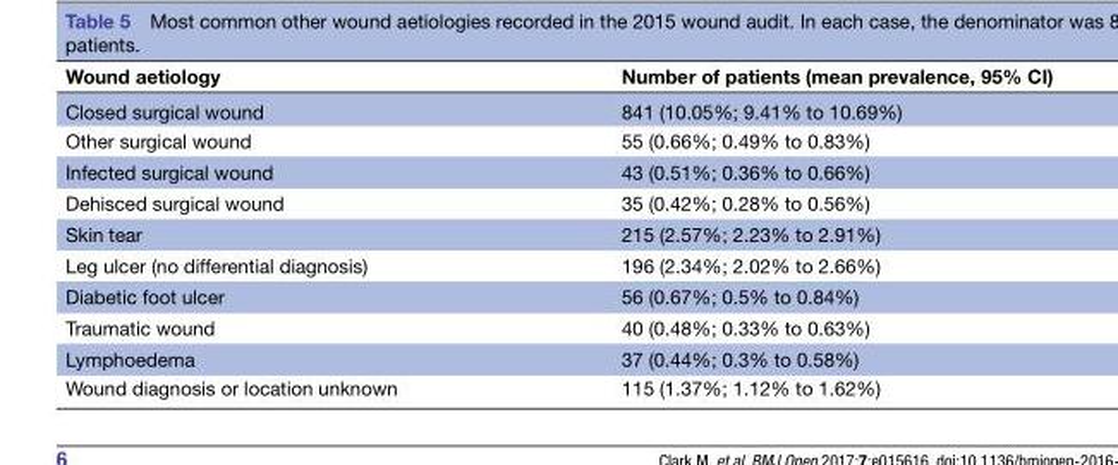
<table><thead><tr><td>Wound aetiology</td><td>Number of patients (mean prevalence, 95% CI)</td></tr></thead><tbody><tr><td>Closed surgical wound</td><td>841 (10.05%; 9.41% to 10.69%)</td></tr><tr><td>Other surgical wound</td><td>55 (0.66%; 0.49% to 0.83%)</td></tr><tr><td>Infected surgical wound</td><td>43 (0.51%; 0.36% to 0.66%)</td></tr><tr><td>Dehisced surgical wound</td><td>35 (0.42%; 0.28% to 0.56%)</td></tr><tr><td>Skin tear</td><td>215 (2.57%; 2.23% to 2.91%)</td></tr><tr><td>Leg ulcer (no differential diagnosis)</td><td>196 (2.34%; 2.02% to 2.66%)</td></tr><tr><td>Diabetic foot ulcer</td><td>56 (0.67%; 0.5% to 0.84%)</td></tr><tr><td>Traumatic wound</td><td>40 (0.48%; 0.33% to 0.63%)</td></tr><tr><td>Lymphoedema</td><td>37 (0.44%; 0.3% to 0.58%)</td></tr><tr><td>Wound diagnosis or location unknown</td><td>115 (1.37%; 1.12% to 1.62%)</td></tr></tbody></table>